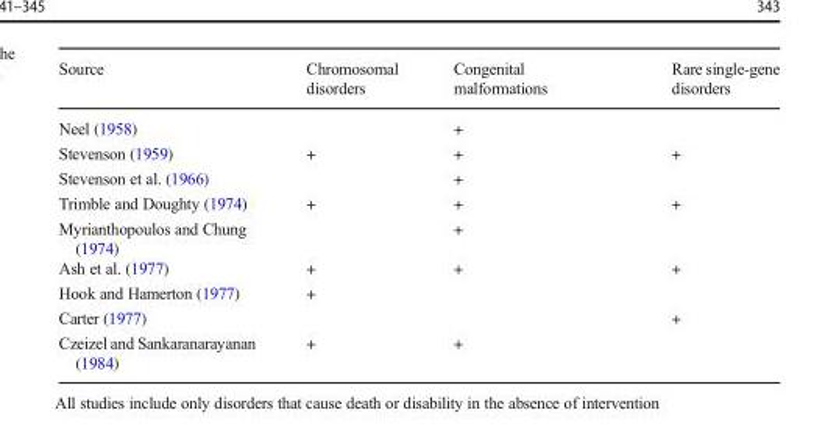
<table><thead><tr><td>Source</td><td>Chromosomal disorders</td><td>Congenital malformations</td><td>Rare single-gene disorders</td></tr></thead><tbody><tr><td>Neel (1958)</td><td></td><td>+</td><td></td></tr><tr><td>Stevenson (1959)</td><td>+</td><td>+</td><td>+</td></tr><tr><td>Stevenson et al. (1966)</td><td></td><td>+</td><td></td></tr><tr><td>Trimble and Doughty (1974)</td><td>+</td><td>+</td><td>+</td></tr><tr><td>Myrianthopoulos and Chung (1974)</td><td></td><td>+</td><td></td></tr><tr><td>Ash et al. (1977)</td><td>+</td><td>+</td><td>+</td></tr><tr><td>Hook and Hamerton (1977)</td><td>+</td><td></td><td></td></tr><tr><td>Carter (1977)</td><td></td><td></td><td>+</td></tr><tr><td>Czeizel and Sankaranarayanan (1984)</td><td>+</td><td>+</td><td></td></tr></tbody></table>